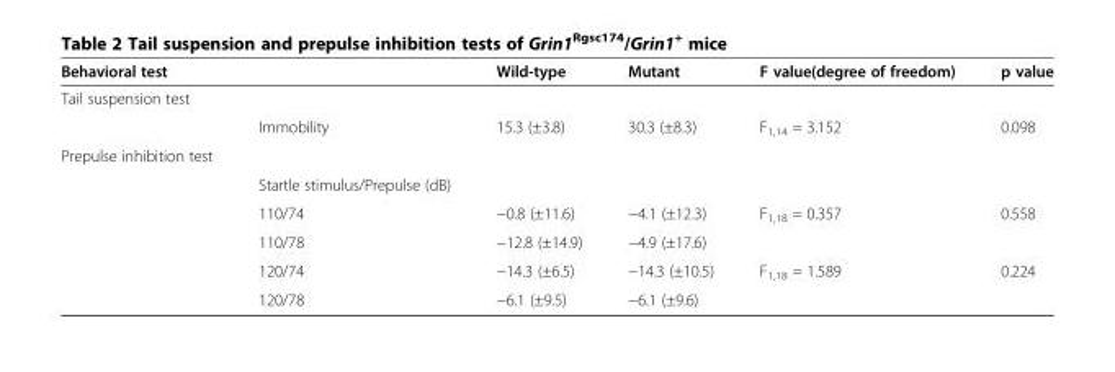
<table><thead><tr><td colspan="2">Behavioral test</td><td rowspan="2">Wild-type</td><td rowspan="2">Mutant</td><td rowspan="2">F value(degree of freedom)</td><td rowspan="2">p value</td></tr><tr><td>Tail suspension test</td><td></td></tr></thead><tbody><tr><td></td><td>Immobility</td><td>15.3 (±3.8)</td><td>30.3 (±8.3)</td><td>F<sub>1,14</sub> = 3.152</td><td>0.098</td></tr><tr><td colspan="6">Prepulse inhibition test</td></tr><tr><td></td><td>Startle stimulus/Prepulse (dB)</td><td></td><td></td><td></td><td></td></tr><tr><td></td><td>110/74</td><td>−0.8 (±11.6)</td><td>−4.1 (±12.3)</td><td rowspan="2">F<sub>1,18</sub> = 0.357</td><td rowspan="2">0.558</td></tr><tr><td></td><td>110/78</td><td>−12.8 (±14.9)</td><td>−4.9 (±17.6)</td></tr><tr><td></td><td>120/74</td><td>−14.3 (±6.5)</td><td>−14.3 (±10.5)</td><td rowspan="2">F<sub>1,18</sub> = 1.589</td><td rowspan="2">0.224</td></tr><tr><td></td><td>120/78</td><td>−6.1 (±9.5)</td><td>−6.1 (±9.6)</td></tr></tbody></table>